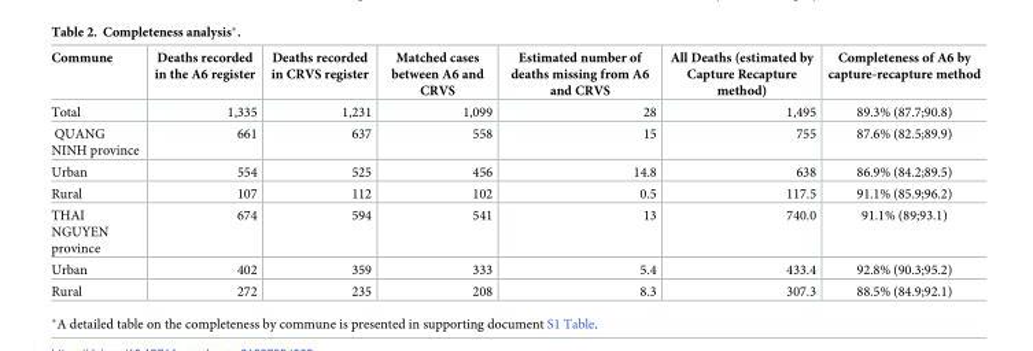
<table><thead><tr><td>Commune</td><td>Deaths recorded in the A6 register</td><td>Deaths recorded in CRVS register</td><td>Matched cases between A6 and CRVS</td><td>Estimated number of deaths missing from A6 and CRVS</td><td>All Deaths (estimated by Capture Recapture method)</td><td>Completeness of A6 by capture-recapture method</td></tr></thead><tbody><tr><td>Total</td><td>1,335</td><td>1,231</td><td>1,099</td><td>28</td><td>1,495</td><td>89.3% (87.7;90.8)</td></tr><tr><td>QUANG NINH province</td><td>661</td><td>637</td><td>558</td><td>15</td><td>755</td><td>87.6% (82.5;89.9)</td></tr><tr><td>Urban</td><td>554</td><td>525</td><td>456</td><td>14.8</td><td>638</td><td>86.9% (84.2;89.5)</td></tr><tr><td>Rural</td><td>107</td><td>112</td><td>102</td><td>0.5</td><td>117.5</td><td>91.1% (85.9;96.2)</td></tr><tr><td>THAI NGUYEN province</td><td>674</td><td>594</td><td>541</td><td>13</td><td>740.0</td><td>91.1% (89;93.1)</td></tr><tr><td>Urban</td><td>402</td><td>359</td><td>333</td><td>5.4</td><td>433.4</td><td>92.8% (90.3;95.2)</td></tr><tr><td>Rural</td><td>272</td><td>235</td><td>208</td><td>8.3</td><td>307.3</td><td>88.5% (84.9;92.1)</td></tr></tbody></table>